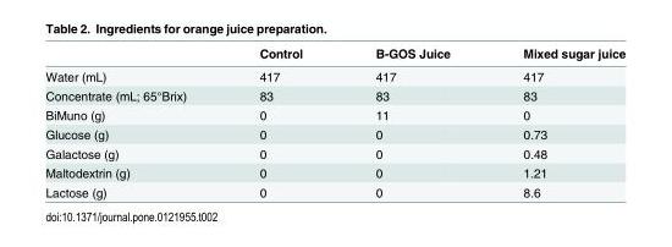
<table><thead><tr><td></td><td>Control</td><td>B-GOS Juice</td><td>Mixed sugar juice</td></tr></thead><tbody><tr><td>Water (mL)</td><td>417</td><td>417</td><td>417</td></tr><tr><td>Concentrate (mL; 65°Brix)</td><td>83</td><td>83</td><td>83</td></tr><tr><td>BiMuno (g)</td><td>0</td><td>11</td><td>0</td></tr><tr><td>Glucose (g)</td><td>0</td><td>0</td><td>0.73</td></tr><tr><td>Galactose (g)</td><td>0</td><td>0</td><td>0.48</td></tr><tr><td>Maltodextrin (g)</td><td>0</td><td>0</td><td>1.21</td></tr><tr><td>Lactose (g)</td><td>0</td><td>0</td><td>8.6</td></tr></tbody></table>